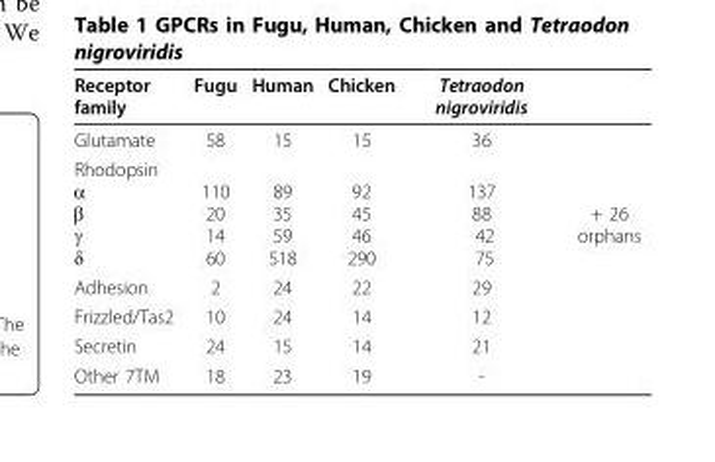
<table><thead><tr><td>Receptor family</td><td>Fugu</td><td>Human</td><td>Chicken</td><td>Tetraodon nigroviridis</td><td></td></tr></thead><tbody><tr><td>Glutamate</td><td>58</td><td>15</td><td>15</td><td>36</td><td></td></tr><tr><td>Rhodopsin α β γ δ</td><td>110 20 14 60</td><td>89 35 59 518</td><td>92 45 46 290</td><td>137 88 42 75</td><td>+ 26 orphans</td></tr><tr><td>Adhesion</td><td>2</td><td>24</td><td>22</td><td>29</td><td></td></tr><tr><td>Frizzled/Tas2</td><td>10</td><td>24</td><td>14</td><td>12</td><td></td></tr><tr><td>Secretin</td><td>24</td><td>15</td><td>14</td><td>21</td><td></td></tr><tr><td>Other 7TM</td><td>18</td><td>23</td><td>19</td><td>-</td><td></td></tr></tbody></table>